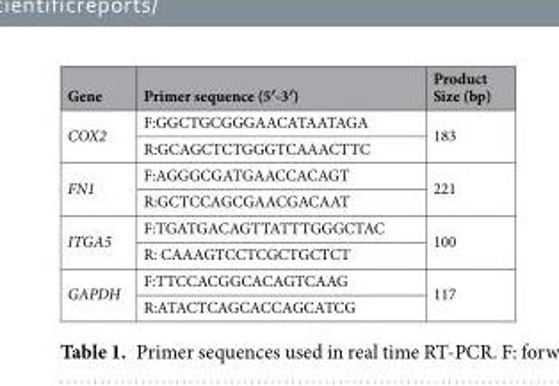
<table><thead><tr><td>Gene</td><td>Primer sequence (5′-3′)</td><td>Product Size (bp)</td></tr></thead><tbody><tr><td rowspan="2">COX2</td><td>F:GGCTGCGGGAACATAATAGA</td><td rowspan="2">183</td></tr><tr><td>R:GCAGCTCTGGGTCAAACTTC</td></tr><tr><td rowspan="2">FN1</td><td>F:AGGGCGATGAACCACAGT</td><td rowspan="2">221</td></tr><tr><td>R:GCTCCAGCGAACGACAAT</td></tr><tr><td rowspan="2">ITGA5</td><td>F:TGATGACAGTTATTTGGGCTAC</td><td rowspan="2">100</td></tr><tr><td>R: CAAAGTCCTCGCTGCTCT</td></tr><tr><td rowspan="2">GAPDH</td><td>F:TTCCACGGCACAGTCAAG</td><td rowspan="2">117</td></tr><tr><td>R:ATACTCAGCACCAGCATCG</td></tr></tbody></table>